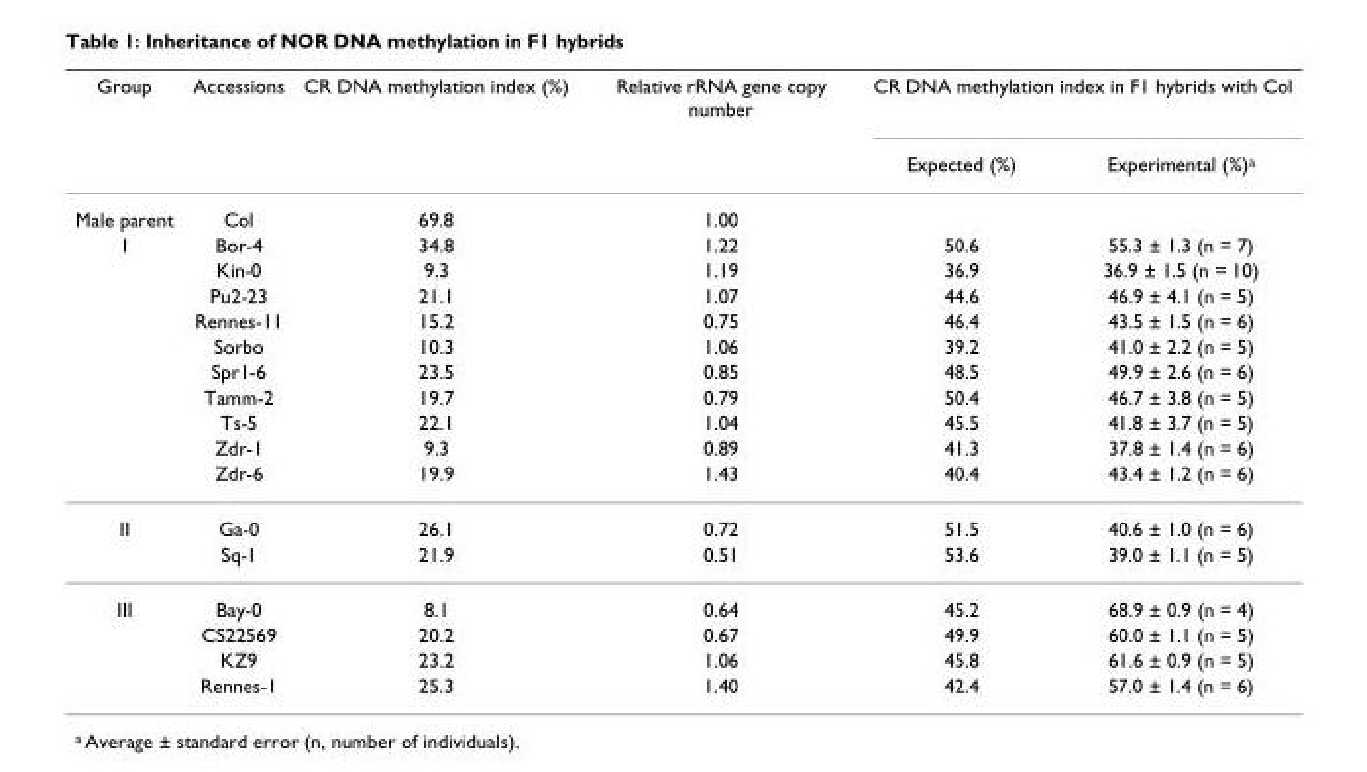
<table><thead><tr><td rowspan="2">Group</td><td rowspan="2">Accessions</td><td rowspan="2">CR DNA methylation index (%)</td><td rowspan="2">Relative rRNA gene copy number</td><td colspan="2">CR DNA methylation index in F1 hybrids with Col</td></tr><tr><td>Expected (%)</td><td>Experimental (%)<sup>a</sup></td></tr></thead><tbody><tr><td>Male parent</td><td>Col</td><td>69.8</td><td>1.00</td><td></td><td></td></tr><tr><td rowspan="10">I</td><td>Bor-4</td><td>34.8</td><td>1.22</td><td>50.6</td><td>55.3 ± 1.3 (n = 7)</td></tr><tr><td>Kin-0</td><td>9.3</td><td>1.19</td><td>36.9</td><td>36.9 ± 1.5 (n = 10)</td></tr><tr><td>Pu2-23</td><td>21.1</td><td>1.07</td><td>44.6</td><td>46.9 ± 4.1 (n = 5)</td></tr><tr><td>Rennes-11</td><td>15.2</td><td>0.75</td><td>46.4</td><td>43.5 ± 1.5 (n = 6)</td></tr><tr><td>Sorbo</td><td>10.3</td><td>1.06</td><td>39.2</td><td>41.0 ± 2.2 (n = 5)</td></tr><tr><td>Spr1-6</td><td>23.5</td><td>0.85</td><td>48.5</td><td>49.9 ± 2.6 (n = 6)</td></tr><tr><td>Tamm-2</td><td>19.7</td><td>0.79</td><td>50.4</td><td>46.7 ± 3.8 (n = 5)</td></tr><tr><td>Ts-5</td><td>22.1</td><td>1.04</td><td>45.5</td><td>41.8 ± 3.7 (n = 5)</td></tr><tr><td>Zdr-1</td><td>9.3</td><td>0.89</td><td>41.3</td><td>37.8 ± 1.4 (n = 6)</td></tr><tr><td>Zdr-6</td><td>19.9</td><td>1.43</td><td>40.4</td><td>43.4 ± 1.2 (n = 6)</td></tr><tr><td rowspan="2">II</td><td>Ga-0</td><td>26.1</td><td>0.72</td><td>51.5</td><td>40.6 ± 1.0 (n = 6)</td></tr><tr><td>Sq-1</td><td>21.9</td><td>0.51</td><td>53.6</td><td>39.0 ± 1.1 (n = 5)</td></tr><tr><td rowspan="4">III</td><td>Bay-0</td><td>8.1</td><td>0.64</td><td>45.2</td><td>68.9 ± 0.9 (n = 4)</td></tr><tr><td>CS22569</td><td>20.2</td><td>0.67</td><td>49.9</td><td>60.0 ± 1.1 (n = 5)</td></tr><tr><td>KZ9</td><td>23.2</td><td>1.06</td><td>45.8</td><td>61.6 ± 0.9 (n = 5)</td></tr><tr><td>Rennes-1</td><td>25.3</td><td>1.40</td><td>42.4</td><td>57.0 ± 1.4 (n = 6)</td></tr></tbody></table>